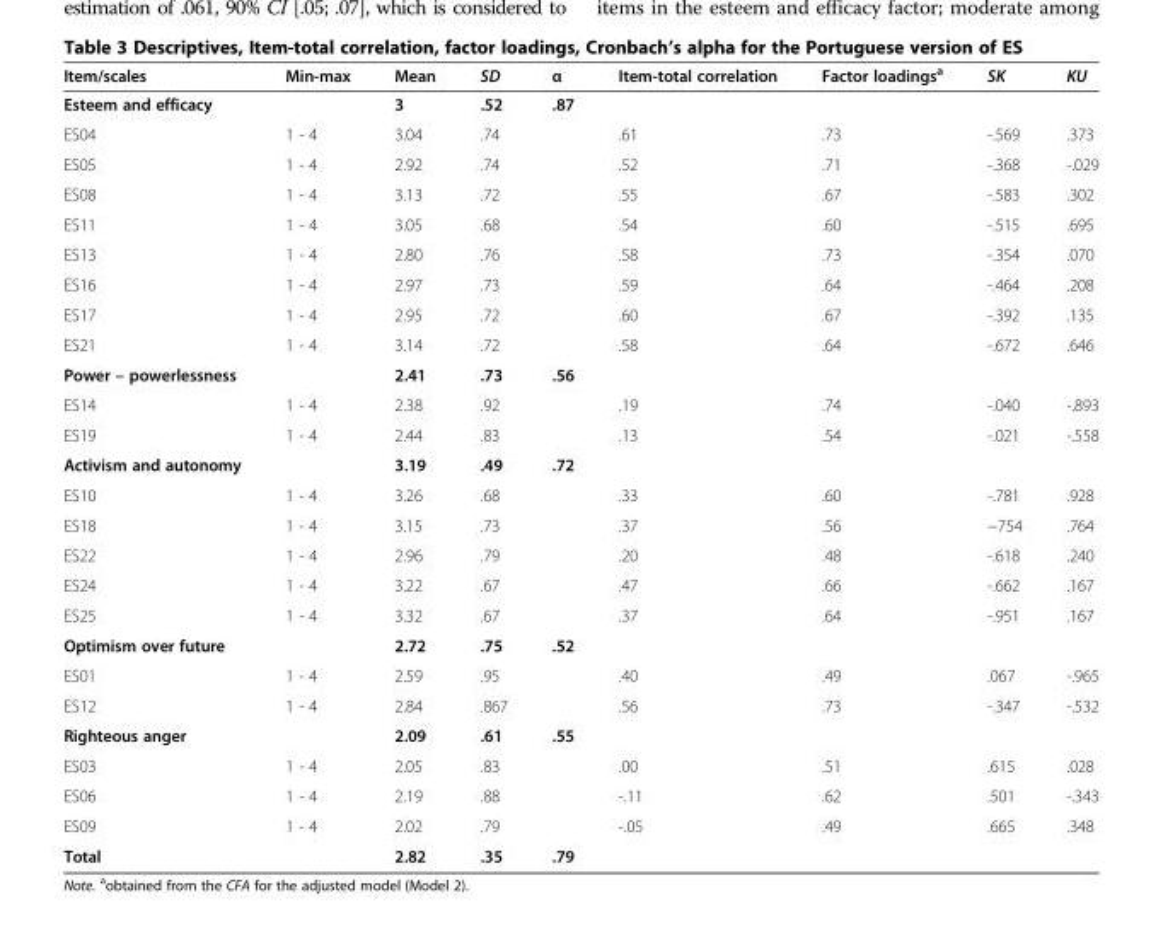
<table><thead><tr><td>Item/scales</td><td>Min-max</td><td>Mean</td><td>SD</td><td>α</td><td>Item-total correlation</td><td>Factor loadings<sup>a</sup></td><td>SK</td><td>KU</td></tr></thead><tbody><tr><td>Esteem and efficacy</td><td></td><td>3</td><td>.52</td><td>.87</td><td></td><td></td><td></td><td></td></tr><tr><td>ES04</td><td>1 - 4</td><td>3.04</td><td>.74</td><td></td><td>.61</td><td>.73</td><td>-.569</td><td>.373</td></tr><tr><td>ES05</td><td>1 - 4</td><td>2.92</td><td>.74</td><td></td><td>.52</td><td>.71</td><td>-.368</td><td>-.029</td></tr><tr><td>ES08</td><td>1 - 4</td><td>3.13</td><td>.72</td><td></td><td>.55</td><td>.67</td><td>-.583</td><td>.302</td></tr><tr><td>ES11</td><td>1 - 4</td><td>3.05</td><td>.68</td><td></td><td>.54</td><td>.60</td><td>-.515</td><td>.695</td></tr><tr><td>ES13</td><td>1 - 4</td><td>2.80</td><td>.76</td><td></td><td>.58</td><td>.73</td><td>-.354</td><td>.070</td></tr><tr><td>ES16</td><td>1 - 4</td><td>2.97</td><td>.73</td><td></td><td>.59</td><td>.64</td><td>-.464</td><td>.208</td></tr><tr><td>ES17</td><td>1 - 4</td><td>2.95</td><td>.72</td><td></td><td>.60</td><td>.67</td><td>-.392</td><td>.135</td></tr><tr><td>ES21</td><td>1 - 4</td><td>3.14</td><td>.72</td><td></td><td>.58</td><td>.64</td><td>-.672</td><td>.646</td></tr><tr><td>Power – powerlessness</td><td></td><td>2.41</td><td>.73</td><td>.56</td><td></td><td></td><td></td><td></td></tr><tr><td>ES14</td><td>1 - 4</td><td>2.38</td><td>.92</td><td></td><td>.19</td><td>.74</td><td>-.040</td><td>-.893</td></tr><tr><td>ES19</td><td>1 - 4</td><td>2.44</td><td>.83</td><td></td><td>.13</td><td>.54</td><td>-.021</td><td>-.558</td></tr><tr><td>Activism and autonomy</td><td></td><td>3.19</td><td>.49</td><td>.72</td><td></td><td></td><td></td><td></td></tr><tr><td>ES10</td><td>1 - 4</td><td>3.26</td><td>.68</td><td></td><td>.33</td><td>.60</td><td>-.781</td><td>.928</td></tr><tr><td>ES18</td><td>1 - 4</td><td>3.15</td><td>.73</td><td></td><td>.37</td><td>.56</td><td>−754</td><td>.764</td></tr><tr><td>ES22</td><td>1 - 4</td><td>2.96</td><td>.79</td><td></td><td>.20</td><td>.48</td><td>-.618</td><td>.240</td></tr><tr><td>ES24</td><td>1 - 4</td><td>3.22</td><td>.67</td><td></td><td>.47</td><td>.66</td><td>-.662</td><td>.167</td></tr><tr><td>ES25</td><td>1 - 4</td><td>3.32</td><td>.67</td><td></td><td>.37</td><td>.64</td><td>-.951</td><td>.167</td></tr><tr><td>Optimism over future</td><td></td><td>2.72</td><td>.75</td><td>.52</td><td></td><td></td><td></td><td></td></tr><tr><td>ES01</td><td>1 - 4</td><td>2.59</td><td>.95</td><td></td><td>.40</td><td>.49</td><td>.067</td><td>-.965</td></tr><tr><td>ES12</td><td>1 - 4</td><td>2.84</td><td>.867</td><td></td><td>.56</td><td>.73</td><td>-.347</td><td>-.532</td></tr><tr><td>Righteous anger</td><td></td><td>2.09</td><td>.61</td><td>.55</td><td></td><td></td><td></td><td></td></tr><tr><td>ES03</td><td>1 - 4</td><td>2.05</td><td>.83</td><td></td><td>.00</td><td>.51</td><td>.615</td><td>.028</td></tr><tr><td>ES06</td><td>1 - 4</td><td>2.19</td><td>.88</td><td></td><td>-.11</td><td>.62</td><td>.501</td><td>-.343</td></tr><tr><td>ES09</td><td>1 - 4</td><td>2.02</td><td>.79</td><td></td><td>-.05</td><td>.49</td><td>.665</td><td>.348</td></tr><tr><td>Total</td><td></td><td>2.82</td><td>.35</td><td>.79</td><td></td><td></td><td></td><td></td></tr></tbody></table>